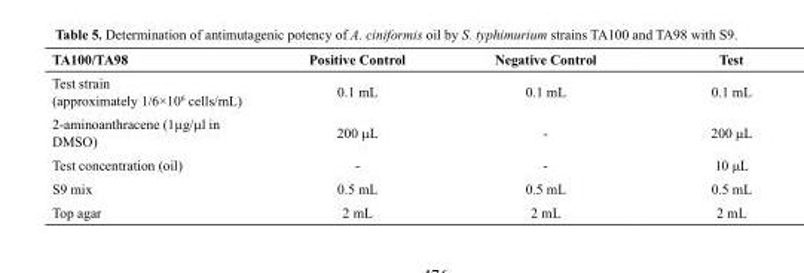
<table><thead><tr><td>Test</td><td>Negative Control</td><td>Positive Control</td><td>TA100/TA98</td></tr></thead><tbody><tr><td>0.1 mL</td><td>0.1 mL</td><td>0.1 mL</td><td>Test strain (approximately 1/6×10<sup>6</sup> cells/mL)</td></tr><tr><td>200 µL</td><td>-</td><td>200 µL</td><td>2-aminoanthracene (1µg/µl in DMSO)</td></tr><tr><td>10 µL</td><td>-</td><td>-</td><td>Test concentration (oil)</td></tr><tr><td>0.5 mL</td><td>0.5 mL</td><td>0.5 mL</td><td>S9 mix</td></tr><tr><td>2 mL</td><td>2 mL</td><td>2 mL</td><td>Top agar</td></tr></tbody></table>